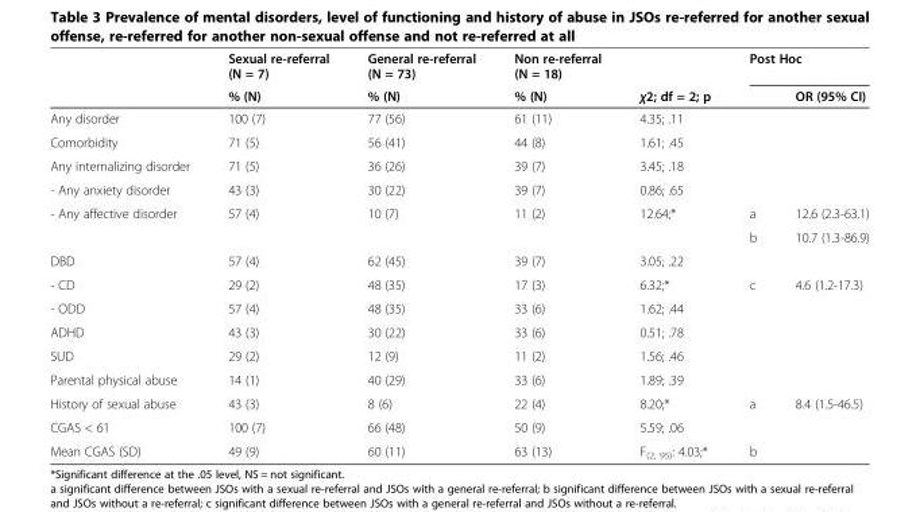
<table><thead><tr><td rowspan="2"></td><td rowspan="2">Sexual re-referral (N = 7) % (N)</td><td rowspan="2">General re-referral (N = 73) % (N)</td><td rowspan="2">Non re-referral (N = 18) % (N)</td><td rowspan="2">χ2; df = 2; p</td><td colspan="2">Post Hoc</td></tr><tr><td></td><td>OR (95% CI)</td></tr></thead><tbody><tr><td>Any disorder</td><td>100 (7)</td><td>77 (56)</td><td>61 (11)</td><td>4.35; .11</td><td></td><td></td></tr><tr><td>Comorbidity</td><td>71 (5)</td><td>56 (41)</td><td>44 (8)</td><td>1.61; .45</td><td></td><td></td></tr><tr><td>Any internalizing disorder</td><td>71 (5)</td><td>36 (26)</td><td>39 (7)</td><td>3.45; .18</td><td></td><td></td></tr><tr><td>- Any anxiety disorder</td><td>43 (3)</td><td>30 (22)</td><td>39 (7)</td><td>0.86; .65</td><td></td><td></td></tr><tr><td rowspan="2">- Any affective disorder</td><td>57 (4)</td><td>10 (7)</td><td>11 (2)</td><td>12.64;*</td><td>a</td><td>12.6 (2.3-63.1)</td></tr><tr><td></td><td></td><td></td><td></td><td>b</td><td>10.7 (1.3-86.9)</td></tr><tr><td>DBD</td><td>57 (4)</td><td>62 (45)</td><td>39 (7)</td><td>3.05; .22</td><td></td><td></td></tr><tr><td>- CD</td><td>29 (2)</td><td>48 (35)</td><td>17 (3)</td><td>6.32;*</td><td>c</td><td>4.6 (1.2-17.3)</td></tr><tr><td>- ODD</td><td>57 (4)</td><td>48 (35)</td><td>33 (6)</td><td>1.62; .44</td><td></td><td></td></tr><tr><td>ADHD</td><td>43 (3)</td><td>30 (22)</td><td>33 (6)</td><td>0.51; .78</td><td></td><td></td></tr><tr><td>SUD</td><td>29 (2)</td><td>12 (9)</td><td>11 (2)</td><td>1.56; .46</td><td></td><td></td></tr><tr><td>Parental physical abuse</td><td>14 (1)</td><td>40 (29)</td><td>33 (6)</td><td>1.89; .39</td><td></td><td></td></tr><tr><td>History of sexual abuse</td><td>43 (3)</td><td>8 (6)</td><td>22 (4)</td><td>8.20;*</td><td>a</td><td>8.4 (1.5-46.5)</td></tr><tr><td>CGAS &lt; 61</td><td>100 (7)</td><td>66 (48)</td><td>50 (9)</td><td>5.59; .06</td><td></td><td></td></tr><tr><td>Mean CGAS (SD)</td><td>49 (9)</td><td>60 (11)</td><td>63 (13)</td><td>F<sub>(2, 95)</sub>: 4.03;*</td><td>b</td><td></td></tr></tbody></table>